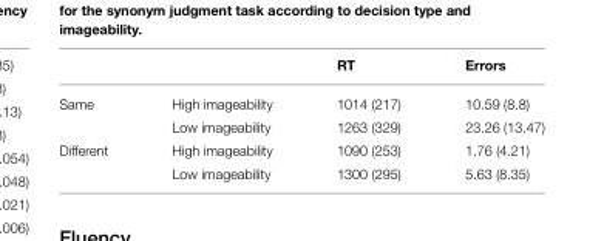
<table><thead><tr><td></td><td></td><td>RT</td><td>Errors</td></tr></thead><tbody><tr><td rowspan="2">Same</td><td>High imageability</td><td>1014 (217)</td><td>10.59 (8.8)</td></tr><tr><td>Low imageability</td><td>1263 (329)</td><td>23.26 (13.47)</td></tr><tr><td rowspan="2">Different</td><td>High imageability</td><td>1090 (253)</td><td>1.76 (4.21)</td></tr><tr><td>Low imageability</td><td>1300 (295)</td><td>5.63 (8.35)</td></tr></tbody></table>